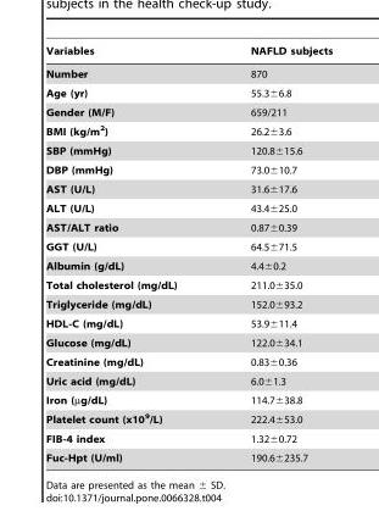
<table><thead><tr><td>Variables</td><td>NAFLD subjects</td></tr></thead><tbody><tr><td>Number</td><td>870</td></tr><tr><td>Age (yr)</td><td>55.3±6.8</td></tr><tr><td>Gender (M/F)</td><td>659/211</td></tr><tr><td>BMI (kg/m<sup>2</sup>)</td><td>26.2±3.6</td></tr><tr><td>SBP (mmHg)</td><td>120.8±15.6</td></tr><tr><td>DBP (mmHg)</td><td>73.0±10.7</td></tr><tr><td>AST (U/L)</td><td>31.6±17.6</td></tr><tr><td>ALT (U/L)</td><td>43.4±25.0</td></tr><tr><td>AST/ALT ratio</td><td>0.87±0.39</td></tr><tr><td>GGT (U/L)</td><td>64.5±71.5</td></tr><tr><td>Albumin (g/dL)</td><td>4.4±0.2</td></tr><tr><td>Total cholesterol (mg/dL)</td><td>211.0±35.0</td></tr><tr><td>Triglyceride (mg/dL)</td><td>152.0±93.2</td></tr><tr><td>HDL-C (mg/dL)</td><td>53.9±11.4</td></tr><tr><td>Glucose (mg/dL)</td><td>122.0±34.1</td></tr><tr><td>Creatinine (mg/dL)</td><td>0.83±0.36</td></tr><tr><td>Uric acid (mg/dL)</td><td>6.0±1.3</td></tr><tr><td>Iron (µg/dL)</td><td>114.7±38.8</td></tr><tr><td>Platelet count (x10<sup>9</sup>/L)</td><td>222.4±53.0</td></tr><tr><td>FIB-4 index</td><td>1.32±0.72</td></tr><tr><td>Fuc-Hpt (U/ml)</td><td>190.6±235.7</td></tr></tbody></table>